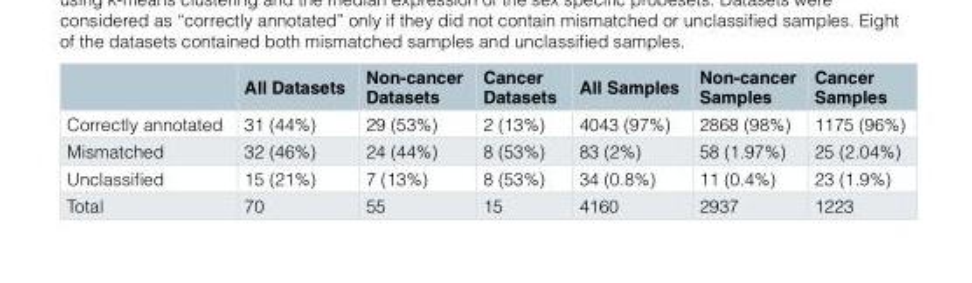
<table><thead><tr><td></td><td>All Datasets</td><td>Non-cancer Datasets</td><td>Cancer Datasets</td><td>All Samples</td><td>Non-cancer Samples</td><td>Cancer Samples</td></tr></thead><tbody><tr><td>Correctly annotated</td><td>31 (44%)</td><td>29 (53%)</td><td>2 (13%)</td><td>4043 (97%)</td><td>2868 (98%)</td><td>1175 (96%)</td></tr><tr><td>Mismatched</td><td>32 (46%)</td><td>24 (44%)</td><td>8 (53%)</td><td>83 (2%)</td><td>58 (1.97%)</td><td>25 (2.04%)</td></tr><tr><td>Unclassified</td><td>15 (21%)</td><td>7 (13%)</td><td>8 (53%)</td><td>34 (0.8%)</td><td>11 (0.4%)</td><td>23 (1.9%)</td></tr><tr><td>Total</td><td>70</td><td>55</td><td>15</td><td>4160</td><td>2937</td><td>1223</td></tr></tbody></table>